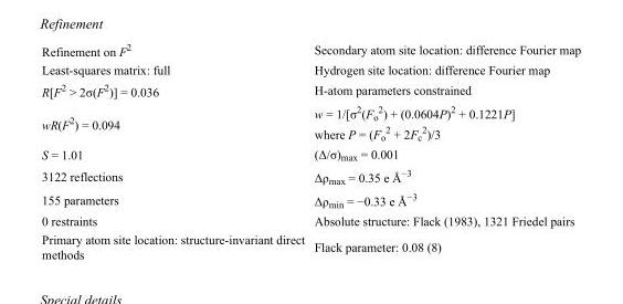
<table><tbody><tr><td>Refinement on F<sup>2</sup></td><td>Secondary atom site location: difference Fourier map</td></tr><tr><td>Least-squares matrix: full</td><td>Hydrogen site location: difference Fourier map</td></tr><tr><td>R[F<sup>2</sup> &gt; 2σ(F<sup>2</sup>)] = 0.036</td><td>H-atom parameters constrained</td></tr><tr><td>wR(F<sup>2</sup>) = 0.094</td><td>w = 1/[σ<sup>2</sup>(F<sub>o</sub> <sup>2</sup>) + (0.0604P)<sup>2</sup> + 0.1221P] where P = (F<sub>o</sub> <sup>2</sup> + 2F<sub>c</sub> <sup>2</sup>)/3</td></tr><tr><td>S = 1.01</td><td>(Δ/σ)<sub>max</sub> = 0.001</td></tr><tr><td>3122 reflections</td><td>Δρ<sub>max</sub> = 0.35 e Å<sup>−3</sup></td></tr><tr><td>155 parameters</td><td>Δρ<sub>min</sub> = −0.33 e Å<sup>−3</sup></td></tr><tr><td>0 restraints</td><td>Absolute structure: Flack (1983), 1321 Friedel pairs</td></tr><tr><td>Primary atom site location: structure-invariant direct methods</td><td>Flack parameter: 0.08 (8)</td></tr></tbody></table>